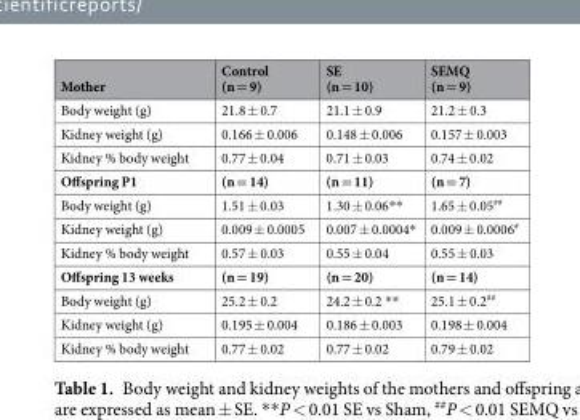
<table><thead><tr><td>Mother</td><td>Control (n = 9)</td><td>SE (n = 10)</td><td>SEMQ (n = 9)</td></tr></thead><tbody><tr><td>Body weight (g)</td><td>21.8 ± 0.7</td><td>21.1 ± 0.9</td><td>21.2 ± 0.3</td></tr><tr><td>Kidney weight (g)</td><td>0.166 ± 0.006</td><td>0.148 ± 0.006</td><td>0.157 ± 0.003</td></tr><tr><td>Kidney % body weight</td><td>0.77 ± 0.04</td><td>0.71 ± 0.03</td><td>0.74 ± 0.02</td></tr><tr><td>Offspring P1</td><td>(n = 14)</td><td>(n = 11)</td><td>(n = 7)</td></tr><tr><td>Body weight (g)</td><td>1.51 ± 0.03</td><td>1.30 ± 0.06**</td><td>1.65 ± 0.05<sup>##</sup></td></tr><tr><td>Kidney weight (g)</td><td>0.009 ± 0.0005</td><td>0.007 ± 0.0004*</td><td>0.009 ± 0.0006<sup>#</sup></td></tr><tr><td>Kidney % body weight</td><td>0.57 ± 0.03</td><td>0.55 ± 0.04</td><td>0.55 ± 0.03</td></tr><tr><td>Offspring 13 weeks</td><td>(n = 19)</td><td>(n = 20)</td><td>(n = 14)</td></tr><tr><td>Body weight (g)</td><td>25.2 ± 0.2</td><td>24.2 ± 0.2 **</td><td>25.1 ± 0.2<sup>##</sup></td></tr><tr><td>Kidney weight (g)</td><td>0.195 ± 0.004</td><td>0.186 ± 0.003</td><td>0.198 ± 0.004</td></tr><tr><td>Kidney % body weight</td><td>0.77 ± 0.02</td><td>0.77 ± 0.02</td><td>0.79 ± 0.02</td></tr></tbody></table>